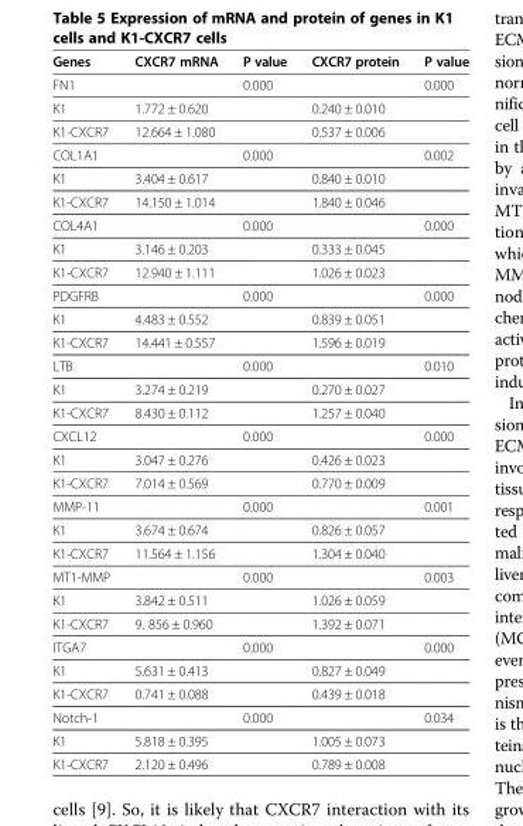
<table><thead><tr><td>Genes</td><td>CXCR7 mRNA</td><td>P value</td><td>CXCR7 protein</td><td>P value</td></tr></thead><tbody><tr><td>FN1</td><td></td><td>0.000</td><td></td><td>0.000</td></tr><tr><td>K1</td><td>1.772 ± 0.620</td><td></td><td>0.240 ± 0.010</td><td></td></tr><tr><td>K1-CXCR7</td><td>12.664 ± 1.080</td><td></td><td>0.537 ± 0.006</td><td></td></tr><tr><td>COL1A1</td><td></td><td>0.000</td><td></td><td>0.002</td></tr><tr><td>K1</td><td>3.404 ± 0.617</td><td></td><td>0.840 ± 0.010</td><td></td></tr><tr><td>K1-CXCR7</td><td>14.150 ± 1.014</td><td></td><td>1.840 ± 0.046</td><td></td></tr><tr><td>COL4A1</td><td></td><td>0.000</td><td></td><td>0.000</td></tr><tr><td>K1</td><td>3.146 ± 0.203</td><td></td><td>0.333 ± 0.045</td><td></td></tr><tr><td>K1-CXCR7</td><td>12.940 ± 1.111</td><td></td><td>1.026 ± 0.023</td><td></td></tr><tr><td>PDGFRB</td><td></td><td>0.000</td><td></td><td>0.000</td></tr><tr><td>K1</td><td>4.483 ± 0.552</td><td></td><td>0.839 ± 0.051</td><td></td></tr><tr><td>K1-CXCR7</td><td>14.441 ± 0.557</td><td></td><td>1.596 ± 0.019</td><td></td></tr><tr><td>LTB</td><td></td><td>0.000</td><td></td><td>0.010</td></tr><tr><td>K1</td><td>3.274 ± 0.219</td><td></td><td>0.270 ± 0.027</td><td></td></tr><tr><td>K1-CXCR7</td><td>8.430 ± 0.112</td><td></td><td>1.257 ± 0.040</td><td></td></tr><tr><td>CXCL12</td><td></td><td>0.000</td><td></td><td>0.000</td></tr><tr><td>K1</td><td>3.047 ± 0.276</td><td></td><td>0.426 ± 0.023</td><td></td></tr><tr><td>K1-CXCR7</td><td>7.014 ± 0.569</td><td></td><td>0.770 ± 0.009</td><td></td></tr><tr><td>MMP-11</td><td></td><td>0.000</td><td></td><td>0.001</td></tr><tr><td>K1</td><td>3.674 ± 0.674</td><td></td><td>0.826 ± 0.057</td><td></td></tr><tr><td>K1-CXCR7</td><td>11.564 ± 1.156</td><td></td><td>1.304 ± 0.040</td><td></td></tr><tr><td>MT1-MMP</td><td></td><td>0.000</td><td></td><td>0.003</td></tr><tr><td>K1</td><td>3.842 ± 0.511</td><td></td><td>1.026 ± 0.059</td><td></td></tr><tr><td>K1-CXCR7</td><td>9. 856 ± 0.960</td><td></td><td>1.392 ± 0.071</td><td></td></tr><tr><td>ITGA7</td><td></td><td>0.000</td><td></td><td>0.000</td></tr><tr><td>K1</td><td>5.631 ± 0.413</td><td></td><td>0.827 ± 0.049</td><td></td></tr><tr><td>K1-CXCR7</td><td>0.741 ± 0.088</td><td></td><td>0.439 ± 0.018</td><td></td></tr><tr><td>Notch-1</td><td></td><td>0.000</td><td></td><td>0.034</td></tr><tr><td>K1</td><td>5.818 ± 0.395</td><td></td><td>1.005 ± 0.073</td><td></td></tr><tr><td>K1-CXCR7</td><td>2.120 ± 0.496</td><td></td><td>0.789 ± 0.008</td><td></td></tr></tbody></table>